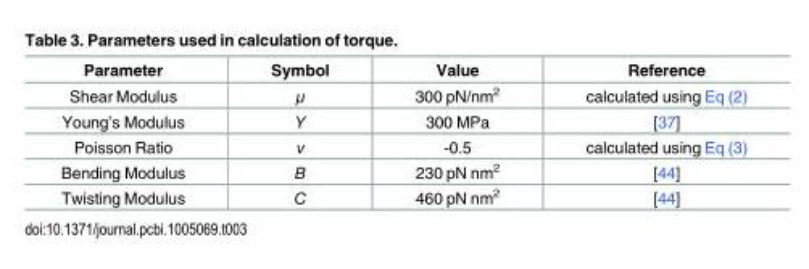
<table><thead><tr><td>Parameter</td><td>Symbol</td><td>Value</td><td>Reference</td></tr></thead><tbody><tr><td>Shear Modulus</td><td>μ</td><td>300 pN/nm<sup>2</sup></td><td>calculated using Eq (2)</td></tr><tr><td>Young’s Modulus</td><td>Y</td><td>300 MPa</td><td>[37]</td></tr><tr><td>Poisson Ratio</td><td>ν</td><td>-0.5</td><td>calculated using Eq (3)</td></tr><tr><td>Bending Modulus</td><td>B</td><td>230 pN nm<sup>2</sup></td><td>[44]</td></tr><tr><td>Twisting Modulus</td><td>C</td><td>460 pN nm<sup>2</sup></td><td>[44]</td></tr></tbody></table>